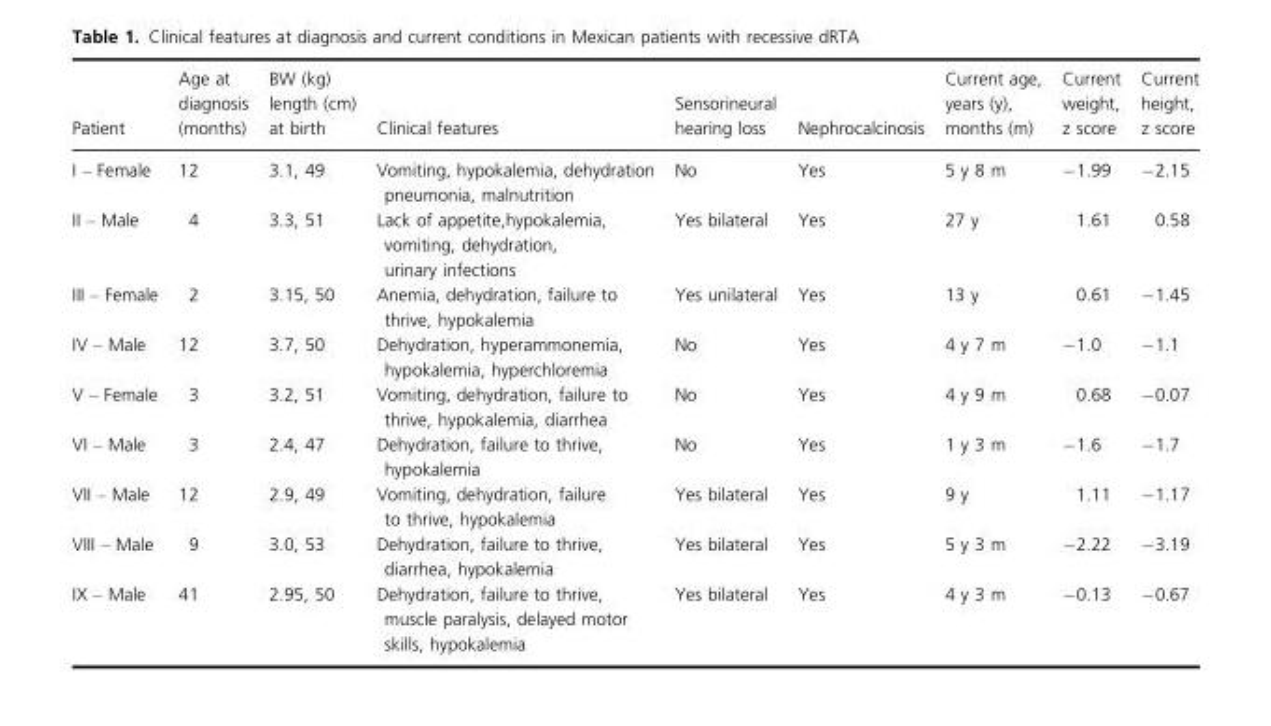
<table><thead><tr><td>Patient</td><td>Age at diagnosis (months)</td><td>BW (kg) length (cm) at birth</td><td>Clinical features</td><td>Sensorineural hearing loss</td><td>Nephrocalcinosis</td><td>Current age, years (y), months (m)</td><td>Current weight, z score</td><td>Current height, z score</td></tr></thead><tbody><tr><td>I – Female</td><td>12</td><td>3.1, 49</td><td>Vomiting, hypokalemia, dehydration pneumonia, malnutrition</td><td>No</td><td>Yes</td><td>5 y 8 m</td><td>−1.99</td><td>−2.15</td></tr><tr><td>II – Male</td><td>4</td><td>3.3, 51</td><td>Lack of appetite,hypokalemia, vomiting, dehydration, urinary infections</td><td>Yes bilateral</td><td>Yes</td><td>27 y</td><td>1.61</td><td>0.58</td></tr><tr><td>III – Female</td><td>2</td><td>3.15, 50</td><td>Anemia, dehydration, failure to thrive, hypokalemia</td><td>Yes unilateral</td><td>Yes</td><td>13 y</td><td>0.61</td><td>−1.45</td></tr><tr><td>IV – Male</td><td>12</td><td>3.7, 50</td><td>Dehydration, hyperammonemia, hypokalemia, hyperchloremia</td><td>No</td><td>Yes</td><td>4 y 7 m</td><td>−1.0</td><td>−1.1</td></tr><tr><td>V – Female</td><td>3</td><td>3.2, 51</td><td>Vomiting, dehydration, failure to thrive, hypokalemia, diarrhea</td><td>No</td><td>Yes</td><td>4 y 9 m</td><td>0.68</td><td>−0.07</td></tr><tr><td>VI – Male</td><td>3</td><td>2.4, 47</td><td>Dehydration, failure to thrive, hypokalemia</td><td>No</td><td>Yes</td><td>1 y 3 m</td><td>−1.6</td><td>−1.7</td></tr><tr><td>VII – Male</td><td>12</td><td>2.9, 49</td><td>Vomiting, dehydration, failure to thrive, hypokalemia</td><td>Yes bilateral</td><td>Yes</td><td>9 y</td><td>1.11</td><td>−1.17</td></tr><tr><td>VIII – Male</td><td>9</td><td>3.0, 53</td><td>Dehydration, failure to thrive, diarrhea, hypokalemia</td><td>Yes bilateral</td><td>Yes</td><td>5 y 3 m</td><td>−2.22</td><td>−3.19</td></tr><tr><td>IX – Male</td><td>41</td><td>2.95, 50</td><td>Dehydration, failure to thrive, muscle paralysis, delayed motor skills, hypokalemia</td><td>Yes bilateral</td><td>Yes</td><td>4 y 3 m</td><td>−0.13</td><td>−0.67</td></tr></tbody></table>